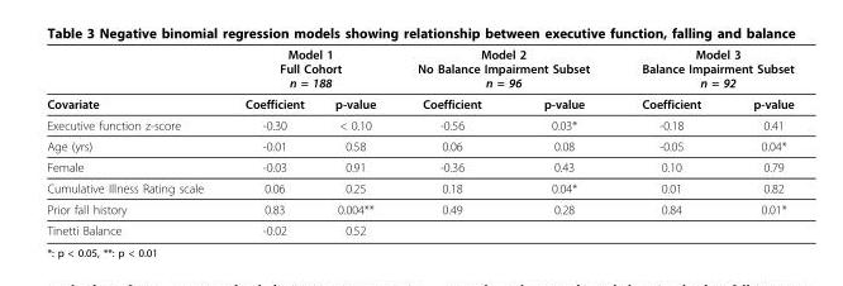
<table><thead><tr><td rowspan="2">Covariate</td><td colspan="2">Model 1 Full Cohort n = 188</td><td colspan="2">Model 2 No Balance Impairment Subset n = 96</td><td colspan="2">Model 3 Balance Impairment Subset n = 92</td></tr><tr><td>Coefficient</td><td>p-value</td><td>Coefficient</td><td>p-value</td><td>Coefficient</td><td>p-value</td></tr></thead><tbody><tr><td>Executive function z-score</td><td>-0.30</td><td>&lt; 0.10</td><td>-0.56</td><td>0.03*</td><td>-0.18</td><td>0.41</td></tr><tr><td>Age (yrs)</td><td>-0.01</td><td>0.58</td><td>0.06</td><td>0.08</td><td>-0.05</td><td>0.04*</td></tr><tr><td>Female</td><td>-0.03</td><td>0.91</td><td>-0.36</td><td>0.43</td><td>0.10</td><td>0.79</td></tr><tr><td>Cumulative Illness Rating scale</td><td>0.06</td><td>0.25</td><td>0.18</td><td>0.04*</td><td>0.01</td><td>0.82</td></tr><tr><td>Prior fall history</td><td>0.83</td><td>0.004**</td><td>0.49</td><td>0.28</td><td>0.84</td><td>0.01*</td></tr><tr><td>Tinetti Balance</td><td>-0.02</td><td>0.52</td><td></td><td></td><td></td><td></td></tr></tbody></table>